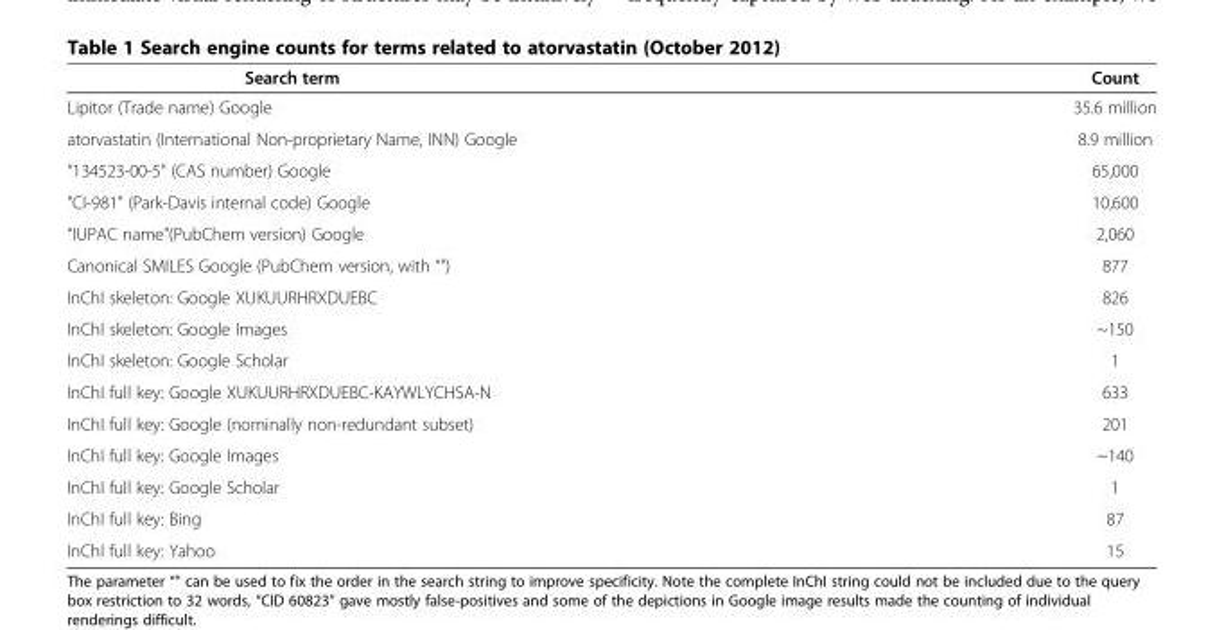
<table><thead><tr><td>Search term</td><td>Count</td></tr></thead><tbody><tr><td>Lipitor (Trade name) Google</td><td>35.6 million</td></tr><tr><td>atorvastatin (International Non-proprietary Name, INN) Google</td><td>8.9 million</td></tr><tr><td>“134523-00-5” (CAS number) Google</td><td>65,000</td></tr><tr><td>&quot;CI-981&quot; (Park-Davis internal code) Google</td><td>10,600</td></tr><tr><td>“IUPAC name”(PubChem version) Google</td><td>2,060</td></tr><tr><td>Canonical SMILES Google (PubChem version, with “”)</td><td>877</td></tr><tr><td>InChI skeleton: Google XUKUURHRXDUEBC</td><td>826</td></tr><tr><td>InChI skeleton: Google Images</td><td>~150</td></tr><tr><td>InChI skeleton: Google Scholar</td><td>1</td></tr><tr><td>InChI full key: Google XUKUURHRXDUEBC-KAYWLYCHSA-N</td><td>633</td></tr><tr><td>InChI full key: Google (nominally non-redundant subset)</td><td>201</td></tr><tr><td>InChI full key: Google Images</td><td>~140</td></tr><tr><td>InChI full key: Google Scholar</td><td>1</td></tr><tr><td>InChI full key: Bing</td><td>87</td></tr><tr><td>InChI full key: Yahoo</td><td>15</td></tr></tbody></table>